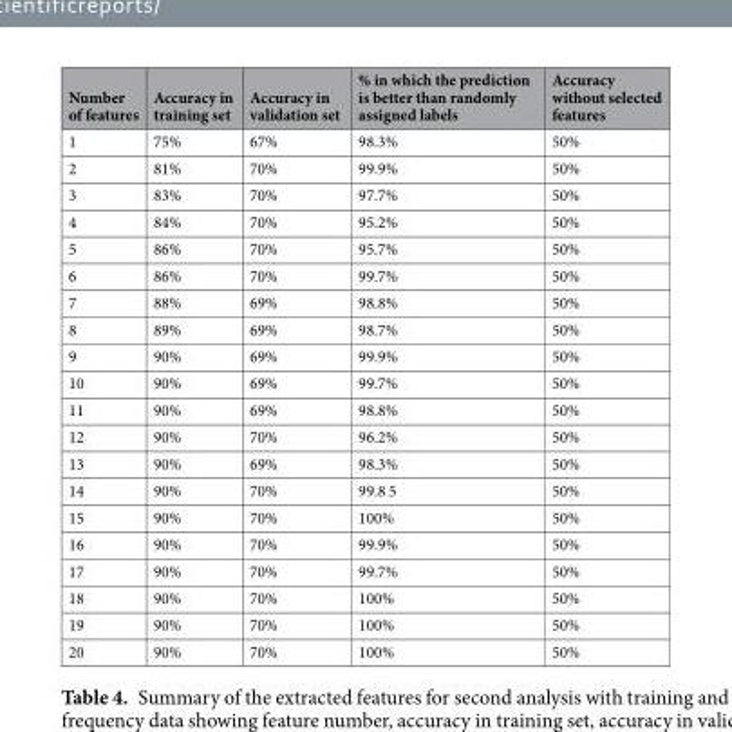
<table><thead><tr><td>Number of features</td><td>Accuracy in training set</td><td>Accuracy in validation set</td><td>% in which the prediction is better than randomly assigned labels</td><td>Accuracy without selected features</td></tr></thead><tbody><tr><td>1</td><td>75%</td><td>67%</td><td>98.3%</td><td>50%</td></tr><tr><td>2</td><td>81%</td><td>70%</td><td>99.9%</td><td>50%</td></tr><tr><td>3</td><td>83%</td><td>70%</td><td>97.7%</td><td>50%</td></tr><tr><td>4</td><td>84%</td><td>70%</td><td>95.2%</td><td>50%</td></tr><tr><td>5</td><td>86%</td><td>70%</td><td>95.7%</td><td>50%</td></tr><tr><td>6</td><td>86%</td><td>70%</td><td>99.7%</td><td>50%</td></tr><tr><td>7</td><td>88%</td><td>69%</td><td>98.8%</td><td>50%</td></tr><tr><td>8</td><td>89%</td><td>69%</td><td>98.7%</td><td>50%</td></tr><tr><td>9</td><td>90%</td><td>69%</td><td>99.9%</td><td>50%</td></tr><tr><td>10</td><td>90%</td><td>69%</td><td>99.7%</td><td>50%</td></tr><tr><td>11</td><td>90%</td><td>69%</td><td>98.8%</td><td>50%</td></tr><tr><td>12</td><td>90%</td><td>70%</td><td>96.2%</td><td>50%</td></tr><tr><td>13</td><td>90%</td><td>69%</td><td>98.3%</td><td>50%</td></tr><tr><td>14</td><td>90%</td><td>70%</td><td>99.8 5</td><td>50%</td></tr><tr><td>15</td><td>90%</td><td>70%</td><td>100%</td><td>50%</td></tr><tr><td>16</td><td>90%</td><td>70%</td><td>99.9%</td><td>50%</td></tr><tr><td>17</td><td>90%</td><td>70%</td><td>99.7%</td><td>50%</td></tr><tr><td>18</td><td>90%</td><td>70%</td><td>100%</td><td>50%</td></tr><tr><td>19</td><td>90%</td><td>70%</td><td>100%</td><td>50%</td></tr><tr><td>20</td><td>90%</td><td>70%</td><td>100%</td><td>50%</td></tr></tbody></table>